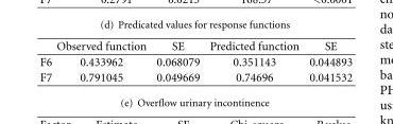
<table><thead><tr><td></td><td>Observed function</td><td>SE</td><td>Predicted function</td><td>SE</td></tr></thead><tbody><tr><td>F6</td><td>0.433962</td><td>0.068079</td><td>0.351143</td><td>0.044893</td></tr><tr><td>F7</td><td>0.791045</td><td>0.049669</td><td>0.74696</td><td>0.041532</td></tr></tbody></table>